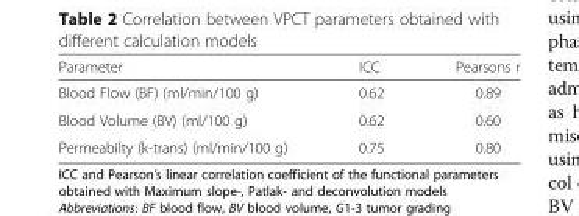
<table><thead><tr><td>Parameter</td><td>ICC</td><td>Pearsons r</td></tr></thead><tbody><tr><td>Blood Flow (BF) (ml/min/100 g)</td><td>0.62</td><td>0.89</td></tr><tr><td>Blood Volume (BV) (ml/100 g)</td><td>0.62</td><td>0.60</td></tr><tr><td>Permeabilty (k-trans) (ml/min/100 g)</td><td>0.75</td><td>0.80</td></tr></tbody></table>